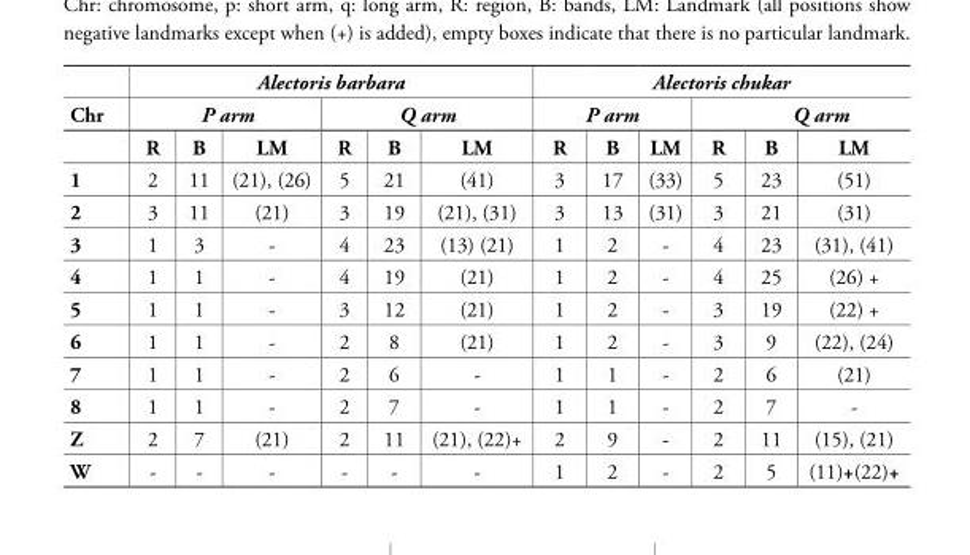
<table><thead><tr><td rowspan="3">Chr</td><td colspan="6">Alectoris barbara</td><td colspan="6">Alectoris chukar</td></tr><tr><td colspan="3">P arm</td><td colspan="3">Q arm</td><td colspan="3">P arm</td><td colspan="3">Q arm</td></tr><tr><td>R</td><td>B</td><td>LM</td><td>R</td><td>B</td><td>LM</td><td>R</td><td>B</td><td>LM</td><td>R</td><td>B</td><td>LM</td></tr></thead><tbody><tr><td>1</td><td>2</td><td>11</td><td>(21), (26)</td><td>5</td><td>21</td><td>(41)</td><td>3</td><td>17</td><td>(33)</td><td>5</td><td>23</td><td>(51)</td></tr><tr><td>2</td><td>3</td><td>11</td><td>(21)</td><td>3</td><td>19</td><td>(21), (31)</td><td>3</td><td>13</td><td>(31)</td><td>3</td><td>21</td><td>(31)</td></tr><tr><td>3</td><td>1</td><td>3</td><td>-</td><td>4</td><td>23</td><td>(13) (21)</td><td>1</td><td>2</td><td>-</td><td>4</td><td>23</td><td>(31), (41)</td></tr><tr><td>4</td><td>1</td><td>1</td><td>-</td><td>4</td><td>19</td><td>(21)</td><td>1</td><td>2</td><td>-</td><td>4</td><td>25</td><td>(26) +</td></tr><tr><td>5</td><td>1</td><td>1</td><td>-</td><td>3</td><td>12</td><td>(21)</td><td>1</td><td>2</td><td>-</td><td>3</td><td>19</td><td>(22) +</td></tr><tr><td>6</td><td>1</td><td>1</td><td>-</td><td>2</td><td>8</td><td>(21)</td><td>1</td><td>2</td><td>-</td><td>3</td><td>9</td><td>(22), (24)</td></tr><tr><td>7</td><td>1</td><td>1</td><td>-</td><td>2</td><td>6</td><td>-</td><td>1</td><td>1</td><td>-</td><td>2</td><td>6</td><td>(21)</td></tr><tr><td>8</td><td>1</td><td>1</td><td>-</td><td>2</td><td>7</td><td>-</td><td>1</td><td>1</td><td>-</td><td>2</td><td>7</td><td>-</td></tr><tr><td>Z</td><td>2</td><td>7</td><td>(21)</td><td>2</td><td>11</td><td>(21), (22)+</td><td>2</td><td>9</td><td>-</td><td>2</td><td>11</td><td>(15), (21)</td></tr><tr><td>W</td><td>-</td><td>-</td><td>-</td><td>-</td><td>-</td><td>-</td><td>1</td><td>2</td><td>-</td><td>2</td><td>5</td><td>(11)+(22)+</td></tr></tbody></table>